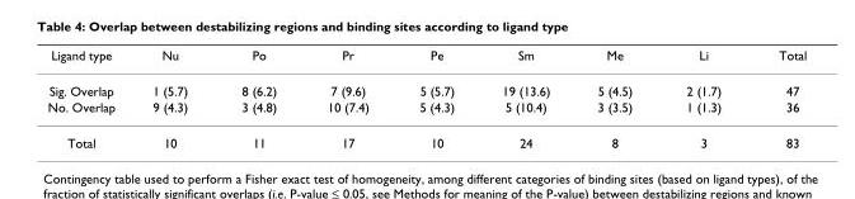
<table><thead><tr><td>Ligand type</td><td>Nu</td><td>Po</td><td>Pr</td><td>Pe</td><td>Sm</td><td>Me</td><td>Li</td><td>Total</td></tr></thead><tbody><tr><td>Sig. Overlap</td><td>1 (5.7)</td><td>8 (6.2)</td><td>7 (9.6)</td><td>5 (5.7)</td><td>19 (13.6)</td><td>5 (4.5)</td><td>2 (1.7)</td><td>47</td></tr><tr><td>No. Overlap</td><td>9 (4.3)</td><td>3 (4.8)</td><td>10 (7.4)</td><td>5 (4.3)</td><td>5 (10.4)</td><td>3 (3.5)</td><td>1 (1.3)</td><td>36</td></tr><tr><td>Total</td><td>10</td><td>11</td><td>17</td><td>10</td><td>24</td><td>8</td><td>3</td><td>83</td></tr></tbody></table>